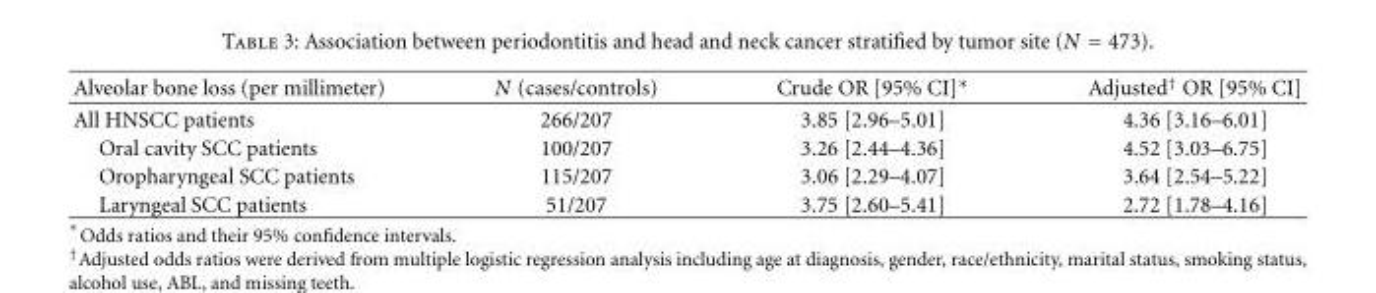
<table><thead><tr><td>Alveolar bone loss (per millimeter)</td><td>N (cases/controls)</td><td>Crude OR [95% CI]∗</td><td>Adjusted<sup>†</sup> OR [95% CI]</td></tr></thead><tbody><tr><td>All HNSCC patients</td><td>266/207</td><td>3.85 [2.96–5.01]</td><td>4.36 [3.16–6.01]</td></tr><tr><td>Oral cavity SCC patients</td><td>100/207</td><td>3.26 [2.44–4.36]</td><td>4.52 [3.03–6.75]</td></tr><tr><td>Oropharyngeal SCC patients</td><td>115/207</td><td>3.06 [2.29–4.07]</td><td>3.64 [2.54–5.22]</td></tr><tr><td>Laryngeal SCC patients</td><td>51/207</td><td>3.75 [2.60–5.41]</td><td>2.72 [1.78–4.16]</td></tr></tbody></table>